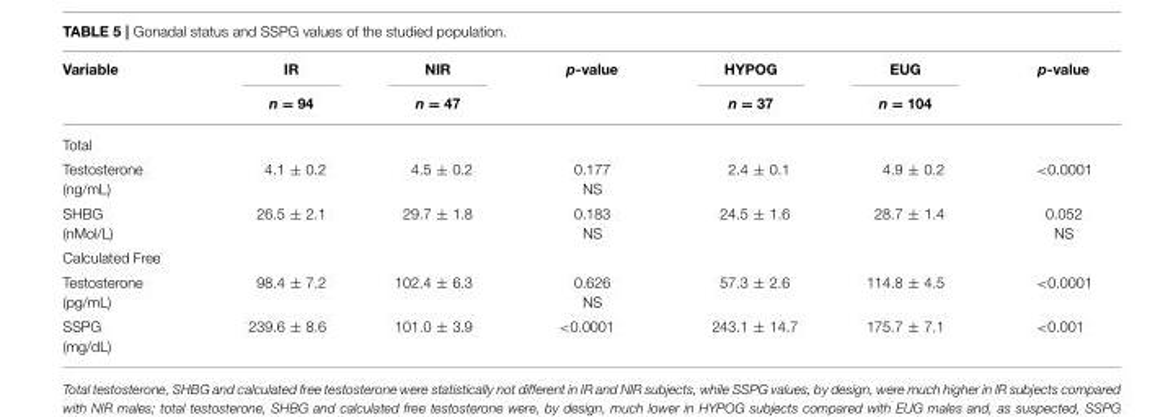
<table><thead><tr><td rowspan="2">Variable</td><td rowspan="2">IR n = 94</td><td rowspan="2">NIR n = 47</td><td rowspan="2">p-value</td><td rowspan="2">HYPOG n = 37</td><td rowspan="2">EUG n = 104</td><td rowspan="2">p-value</td></tr><tr></tr></thead><tbody><tr><td colspan="7">Total</td></tr><tr><td>Testosterone (ng/mL)</td><td>4.1 ± 0.2</td><td>4.5 ± 0.2</td><td>0.177 NS</td><td>2.4 ± 0.1</td><td>4.9 ± 0.2</td><td>&lt;0.0001</td></tr><tr><td>SHBG (nMol/L)</td><td>26.5 ± 2.1</td><td>29.7 ± 1.8</td><td>0.183 NS</td><td>24.5 ± 1.6</td><td>28.7 ± 1.4</td><td>0.052 NS</td></tr><tr><td colspan="7">Calculated Free</td></tr><tr><td>Testosterone (pg/mL)</td><td>98.4 ± 7.2</td><td>102.4 ± 6.3</td><td>0.626 NS</td><td>57.3 ± 2.6</td><td>114.8 ± 4.5</td><td>&lt;0.0001</td></tr><tr><td>SSPG (mg/dL)</td><td>239.6 ± 8.6</td><td>101.0 ± 3.9</td><td>&lt;0.0001</td><td>243.1 ± 14.7</td><td>175.7 ± 7.1</td><td>&lt;0.001</td></tr></tbody></table>